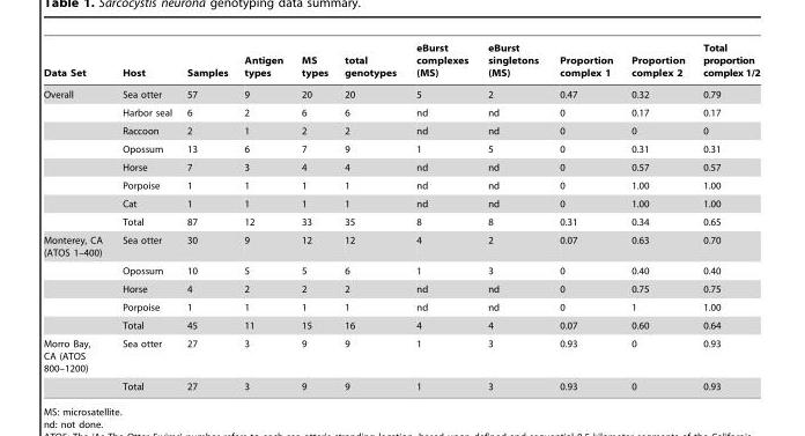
<table><thead><tr><td>Data Set</td><td>Host</td><td>Samples</td><td>Antigen types</td><td>MS types</td><td>total genotypes</td><td>eBurst complexes (MS)</td><td>eBurst singletons (MS)</td><td>Proportion complex 1</td><td>Proportion complex 2</td><td>Total proportion complex 1/2</td></tr></thead><tbody><tr><td rowspan="8">Overall</td><td>Sea otter</td><td>57</td><td>9</td><td>20</td><td>20</td><td>5</td><td>2</td><td>0.47</td><td>0.32</td><td>0.79</td></tr><tr><td>Harbor seal</td><td>6</td><td>2</td><td>6</td><td>6</td><td>nd</td><td>nd</td><td>0</td><td>0.17</td><td>0.17</td></tr><tr><td>Raccoon</td><td>2</td><td>1</td><td>2</td><td>2</td><td>nd</td><td>nd</td><td>0</td><td>0</td><td>0</td></tr><tr><td>Opossum</td><td>13</td><td>6</td><td>7</td><td>9</td><td>1</td><td>5</td><td>0</td><td>0.31</td><td>0.31</td></tr><tr><td>Horse</td><td>7</td><td>3</td><td>4</td><td>4</td><td>nd</td><td>nd</td><td>0</td><td>0.57</td><td>0.57</td></tr><tr><td>Porpoise</td><td>1</td><td>1</td><td>1</td><td>1</td><td>nd</td><td>nd</td><td>0</td><td>1.00</td><td>1.00</td></tr><tr><td>Cat</td><td>1</td><td>1</td><td>1</td><td>1</td><td>nd</td><td>nd</td><td>0</td><td>1.00</td><td>1.00</td></tr><tr><td>Total</td><td>87</td><td>12</td><td>33</td><td>35</td><td>8</td><td>8</td><td>0.31</td><td>0.34</td><td>0.65</td></tr><tr><td rowspan="5">Monterey, CA (ATOS 1–400)</td><td>Sea otter</td><td>30</td><td>9</td><td>12</td><td>12</td><td>4</td><td>2</td><td>0.07</td><td>0.63</td><td>0.70</td></tr><tr><td>Opossum</td><td>10</td><td>5</td><td>5</td><td>6</td><td>1</td><td>3</td><td>0</td><td>0.40</td><td>0.40</td></tr><tr><td>Horse</td><td>4</td><td>2</td><td>2</td><td>2</td><td>nd</td><td>nd</td><td>0</td><td>0.75</td><td>0.75</td></tr><tr><td>Porpoise</td><td>1</td><td>1</td><td>1</td><td>1</td><td>nd</td><td>nd</td><td>0</td><td>1</td><td>1.00</td></tr><tr><td>Total</td><td>45</td><td>11</td><td>15</td><td>16</td><td>4</td><td>4</td><td>0.07</td><td>0.60</td><td>0.64</td></tr><tr><td rowspan="2">Morro Bay, CA (ATOS 800–1200)</td><td>Sea otter</td><td>27</td><td>3</td><td>9</td><td>9</td><td>1</td><td>3</td><td>0.93</td><td>0</td><td>0.93</td></tr><tr><td>Total</td><td>27</td><td>3</td><td>9</td><td>9</td><td>1</td><td>3</td><td>0.93</td><td>0</td><td>0.93</td></tr></tbody></table>